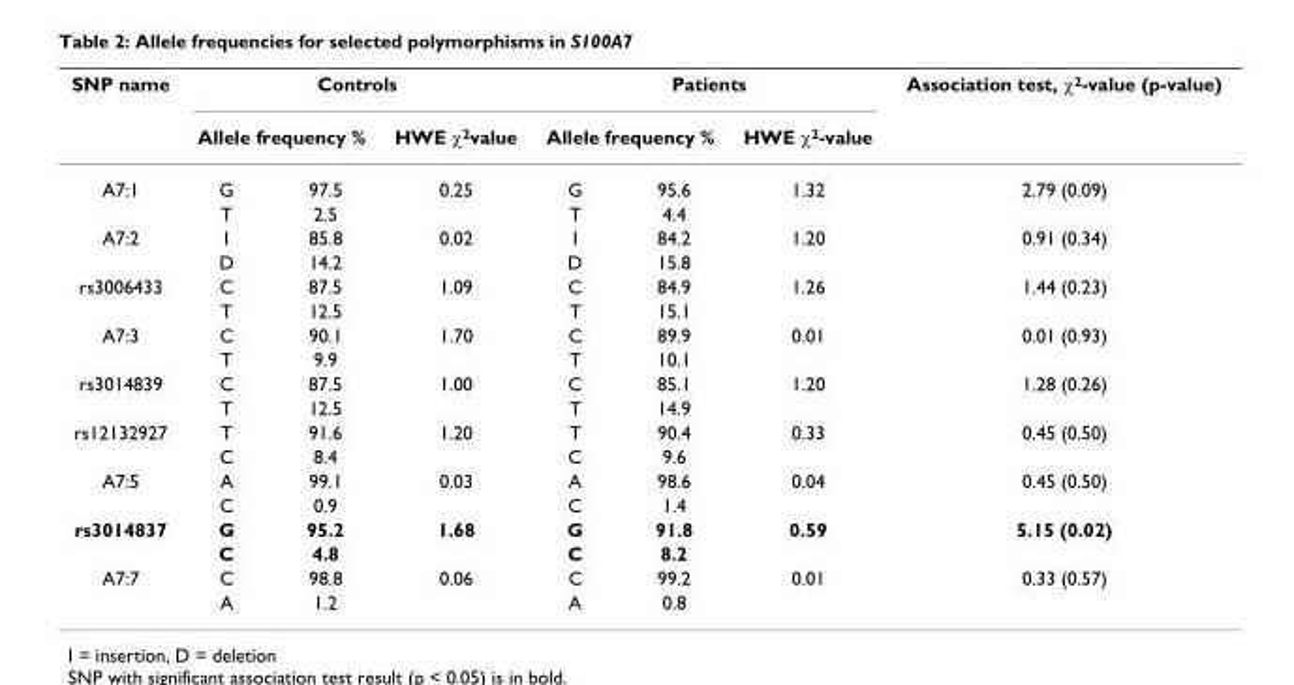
<table><thead><tr><td rowspan="3">SNP name A7:1</td><td colspan="3">Controls</td><td colspan="3">Patients</td><td rowspan="3">Association test, χ<sup>2</sup>-value (p-value) 2.79 (0.09)</td></tr><tr><td colspan="2">Allele frequency %</td><td rowspan="2">HWE χ<sup>2</sup>value 0.25</td><td colspan="2">Allele frequency %</td><td rowspan="2">HWE χ<sup>2</sup>-value 1.32</td></tr><tr><td>G</td><td>97.5</td><td>G</td><td>95.6</td></tr></thead><tbody><tr><td></td><td>T</td><td>2.5</td><td></td><td>T</td><td>4.4</td><td></td><td></td></tr><tr><td rowspan="2">A7:2</td><td>I</td><td>85.8</td><td>0.02</td><td>I</td><td>84.2</td><td>1.20</td><td>0.91 (0.34)</td></tr><tr><td>D</td><td>14.2</td><td></td><td>D</td><td>15.8</td><td></td><td></td></tr><tr><td rowspan="2">rs3006433</td><td>C</td><td>87.5</td><td>1.09</td><td>C</td><td>84.9</td><td>1.26</td><td>1.44 (0.23)</td></tr><tr><td>T</td><td>12.5</td><td></td><td>T</td><td>15.1</td><td></td><td></td></tr><tr><td rowspan="2">A7:3</td><td>C</td><td>90.1</td><td>1.70</td><td>C</td><td>89.9</td><td>0.01</td><td>0.01 (0.93)</td></tr><tr><td>T</td><td>9.9</td><td></td><td>T</td><td>10.1</td><td></td><td></td></tr><tr><td rowspan="2">rs3014839</td><td>C</td><td>87.5</td><td>1.00</td><td>C</td><td>85.1</td><td>1.20</td><td>1.28 (0.26)</td></tr><tr><td>T</td><td>12.5</td><td></td><td>T</td><td>14.9</td><td></td><td></td></tr><tr><td rowspan="2">rs12132927</td><td>T</td><td>91.6</td><td>1.20</td><td>T</td><td>90.4</td><td>0.33</td><td>0.45 (0.50)</td></tr><tr><td>C</td><td>8.4</td><td></td><td>C</td><td>9.6</td><td></td><td></td></tr><tr><td rowspan="2">A7:5</td><td>A</td><td>99.1</td><td>0.03</td><td>A</td><td>98.6</td><td>0.04</td><td>0.45 (0.50)</td></tr><tr><td>C</td><td>0.9</td><td></td><td>C</td><td>1.4</td><td></td><td></td></tr><tr><td rowspan="2">rs3014837</td><td>G</td><td>95.2</td><td>1.68</td><td>G</td><td>91.8</td><td>0.59</td><td>5.15 (0.02)</td></tr><tr><td>C</td><td>4.8</td><td></td><td>C</td><td>8.2</td><td></td><td></td></tr><tr><td rowspan="2">A7:7</td><td>C</td><td>98.8</td><td>0.06</td><td>C</td><td>99.2</td><td>0.01</td><td>0.33 (0.57)</td></tr><tr><td>A</td><td>1.2</td><td></td><td>A</td><td>0.8</td><td></td><td></td></tr></tbody></table>